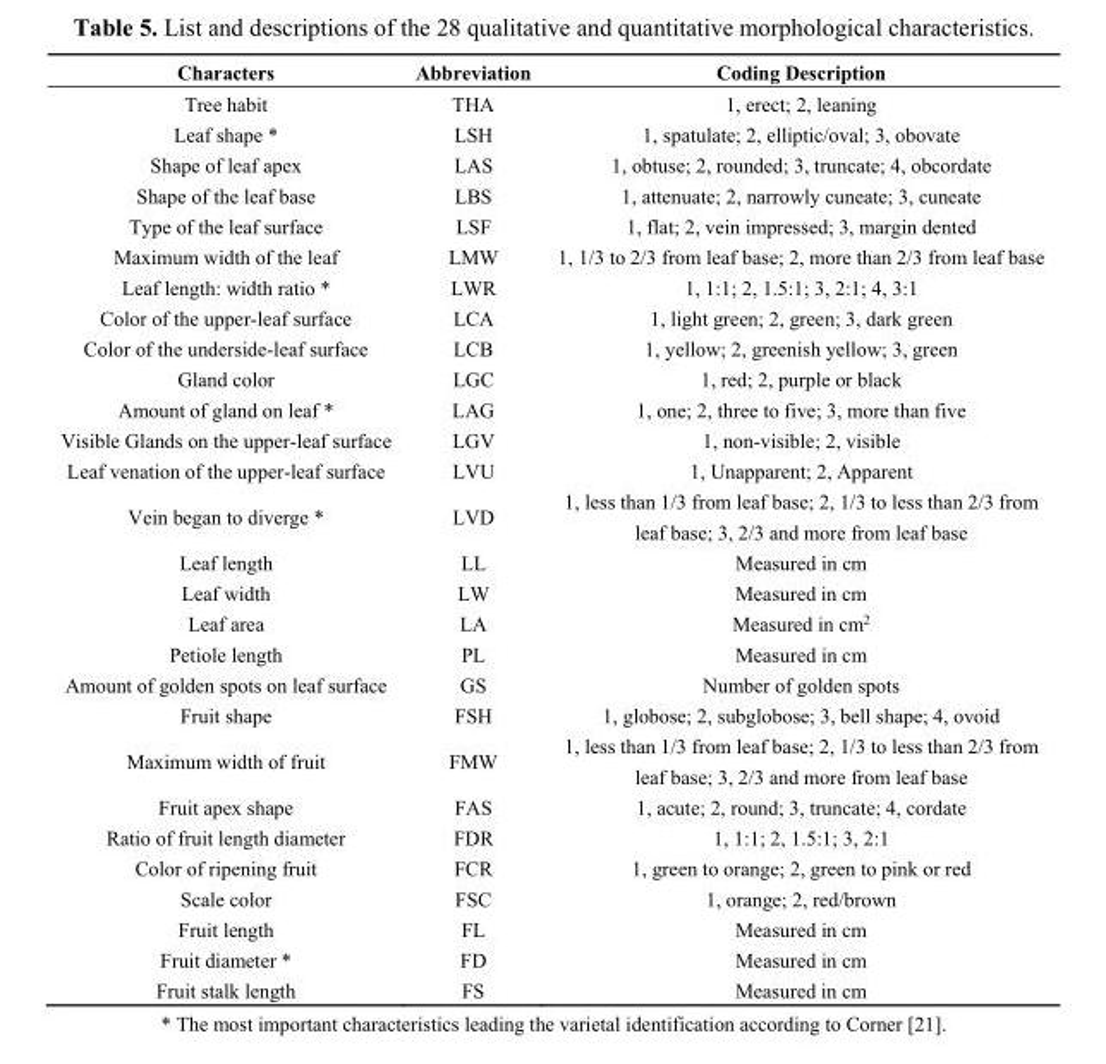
<table><thead><tr><td>Characters</td><td>Abbreviation</td><td>Coding Description</td></tr></thead><tbody><tr><td>Tree habit</td><td>THA</td><td>1, erect; 2, leaning</td></tr><tr><td>Leaf shape *</td><td>LSH</td><td>1, spatulate; 2, elliptic/oval; 3, obovate</td></tr><tr><td>Shape of leaf apex</td><td>LAS</td><td>1, obtuse; 2, rounded; 3, truncate; 4, obcordate</td></tr><tr><td>Shape of the leaf base</td><td>LBS</td><td>1, attenuate; 2, narrowly cuneate; 3, cuneate</td></tr><tr><td>Type of the leaf surface</td><td>LSF</td><td>1, flat; 2, vein impressed; 3, margin dented</td></tr><tr><td>Maximum width of the leaf</td><td>LMW</td><td>1, 1/3 to 2/3 from leaf base; 2, more than 2/3 from leaf base</td></tr><tr><td>Leaf length: width ratio *</td><td>LWR</td><td>1, 1:1; 2, 1.5:1; 3, 2:1; 4, 3:1</td></tr><tr><td>Color of the upper-leaf surface</td><td>LCA</td><td>1, light green; 2, green; 3, dark green</td></tr><tr><td>Color of the underside-leaf surface</td><td>LCB</td><td>1, yellow; 2, greenish yellow; 3, green</td></tr><tr><td>Gland color</td><td>LGC</td><td>1, red; 2, purple or black</td></tr><tr><td>Amount of gland on leaf *</td><td>LAG</td><td>1, one; 2, three to five; 3, more than five</td></tr><tr><td>Visible Glands on the upper-leaf surface</td><td>LGV</td><td>1, non-visible; 2, visible</td></tr><tr><td>Leaf venation of the upper-leaf surface</td><td>LVU</td><td>1, Unapparent; 2, Apparent</td></tr><tr><td>Vein began to diverge *</td><td>LVD</td><td>1, less than 1/3 from leaf base; 2, 1/3 to less than 2/3 from leaf base; 3, 2/3 and more from leaf base</td></tr><tr><td>Leaf length</td><td>LL</td><td>Measured in cm</td></tr><tr><td>Leaf width</td><td>LW</td><td>Measured in cm</td></tr><tr><td>Leaf area</td><td>LA</td><td>Measured in cm<sup>2</sup></td></tr><tr><td>Petiole length</td><td>PL</td><td>Measured in cm</td></tr><tr><td>Amount of golden spots on leaf surface</td><td>GS</td><td>Number of golden spots</td></tr><tr><td>Fruit shape</td><td>FSH</td><td>1, globose; 2, subglobose; 3, bell shape; 4, ovoid</td></tr><tr><td>Maximum width of fruit</td><td>FMW</td><td>1, less than 1/3 from leaf base; 2, 1/3 to less than 2/3 from leaf base; 3, 2/3 and more from leaf base</td></tr><tr><td>Fruit apex shape</td><td>FAS</td><td>1, acute; 2, round; 3, truncate; 4, cordate</td></tr><tr><td>Ratio of fruit length diameter</td><td>FDR</td><td>1, 1:1; 2, 1.5:1; 3, 2:1</td></tr><tr><td>Color of ripening fruit</td><td>FCR</td><td>1, green to orange; 2, green to pink or red</td></tr><tr><td>Scale color</td><td>FSC</td><td>1, orange; 2, red/brown</td></tr><tr><td>Fruit length</td><td>FL</td><td>Measured in cm</td></tr><tr><td>Fruit diameter *</td><td>FD</td><td>Measured in cm</td></tr><tr><td>Fruit stalk length</td><td>FS</td><td>Measured in cm</td></tr></tbody></table>